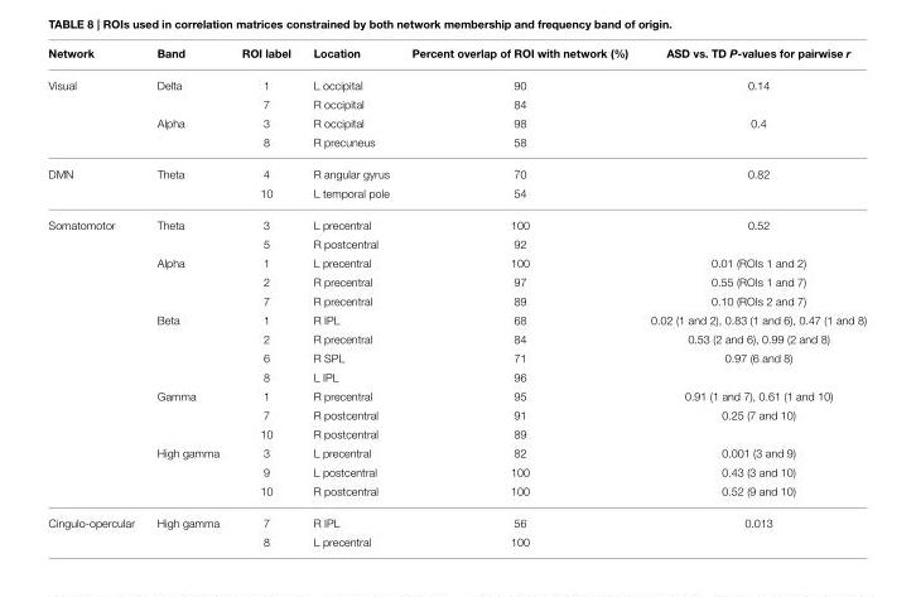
<table><thead><tr><td>Network</td><td>Band</td><td>ROI label</td><td>Location</td><td>Percent overlap of ROI with network (%)</td><td>ASD vs. TD P-values for pairwise r</td></tr></thead><tbody><tr><td rowspan="4">Visual</td><td>Delta</td><td>1</td><td>L occipital</td><td>90</td><td>0.14</td></tr><tr><td></td><td>7</td><td>R occipital</td><td>84</td><td></td></tr><tr><td>Alpha</td><td>3</td><td>R occipital</td><td>98</td><td>0.4</td></tr><tr><td></td><td>8</td><td>R precuneus</td><td>58</td><td></td></tr><tr><td rowspan="2">DMN</td><td>Theta</td><td>4</td><td>R angular gyrus</td><td>70</td><td>0.82</td></tr><tr><td></td><td>10</td><td>L temporal pole</td><td>54</td><td></td></tr><tr><td rowspan="15">Somatomotor</td><td>Theta</td><td>3</td><td>L precentral</td><td>100</td><td>0.52</td></tr><tr><td></td><td>5</td><td>R postcentral</td><td>92</td><td></td></tr><tr><td>Alpha</td><td>1</td><td>L precentral</td><td>100</td><td>0.01 (ROIs 1 and 2)</td></tr><tr><td></td><td>2</td><td>R precentral</td><td>97</td><td>0.55 (ROIs 1 and 7)</td></tr><tr><td></td><td>7</td><td>R precentral</td><td>89</td><td>0.10 (ROIs 2 and 7)</td></tr><tr><td>Beta</td><td>1</td><td>R IPL</td><td>68</td><td>0.02 (1 and 2), 0.83 (1 and 6), 0.47 (1 and 8)</td></tr><tr><td></td><td>2</td><td>R precentral</td><td>84</td><td>0.53 (2 and 6), 0.99 (2 and 8)</td></tr><tr><td></td><td>6</td><td>R SPL</td><td>71</td><td>0.97 (6 and 8)</td></tr><tr><td></td><td>8</td><td>L IPL</td><td>96</td><td></td></tr><tr><td>Gamma</td><td>1</td><td>R precentral</td><td>95</td><td>0.91 (1 and 7), 0.61 (1 and 10)</td></tr><tr><td></td><td>7</td><td>R postcentral</td><td>91</td><td>0.25 (7 and 10)</td></tr><tr><td></td><td>10</td><td>R postcentral</td><td>89</td><td></td></tr><tr><td>High gamma</td><td>3</td><td>L precentral</td><td>82</td><td>0.001 (3 and 9)</td></tr><tr><td></td><td>9</td><td>L postcentral</td><td>100</td><td>0.43 (3 and 10)</td></tr><tr><td></td><td>10</td><td>R postcentral</td><td>100</td><td>0.52 (9 and 10)</td></tr><tr><td rowspan="2">Cingulo-opercular</td><td>High gamma</td><td>7</td><td>R IPL</td><td>56</td><td>0.013</td></tr><tr><td></td><td>8</td><td>L precentral</td><td>100</td><td></td></tr></tbody></table>